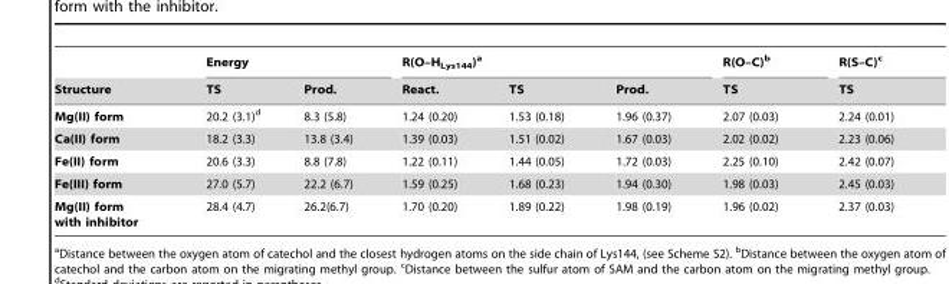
<table><thead><tr><td rowspan="2">Structure</td><td colspan="2">Energy</td><td colspan="3">R(O–H<sub>Lys144</sub>)<sup>a</sup></td><td rowspan="2">R(O–C)<sup>b</sup> TS</td><td rowspan="2">R(S–C)<sup>c</sup> TS</td></tr><tr><td>TS</td><td>Prod.</td><td>React.</td><td>TS</td><td>Prod.</td></tr></thead><tbody><tr><td>Mg(II) form</td><td>20.2 (3.1)<sup>d</sup></td><td>8.3 (5.8)</td><td>1.24 (0.20)</td><td>1.53 (0.18)</td><td>1.96 (0.37)</td><td>2.07 (0.03)</td><td>2.24 (0.01)</td></tr><tr><td>Ca(II) form</td><td>18.2 (3.3)</td><td>13.8 (3.4)</td><td>1.39 (0.03)</td><td>1.51 (0.02)</td><td>1.67 (0.03)</td><td>2.02 (0.02)</td><td>2.23 (0.06)</td></tr><tr><td>Fe(II) form</td><td>20.6 (3.3)</td><td>8.8 (7.8)</td><td>1.22 (0.11)</td><td>1.44 (0.05)</td><td>1.72 (0.03)</td><td>2.25 (0.10)</td><td>2.42 (0.07)</td></tr><tr><td>Fe(III) form</td><td>27.0 (5.7)</td><td>22.2 (6.7)</td><td>1.59 (0.25)</td><td>1.68 (0.23)</td><td>1.94 (0.30)</td><td>1.98 (0.03)</td><td>2.45 (0.03)</td></tr><tr><td>Mg(II) form with inhibitor</td><td>28.4 (4.7)</td><td>26.2(6.7)</td><td>1.70 (0.20)</td><td>1.89 (0.22)</td><td>1.98 (0.19)</td><td>1.96 (0.02)</td><td>2.37 (0.03)</td></tr></tbody></table>